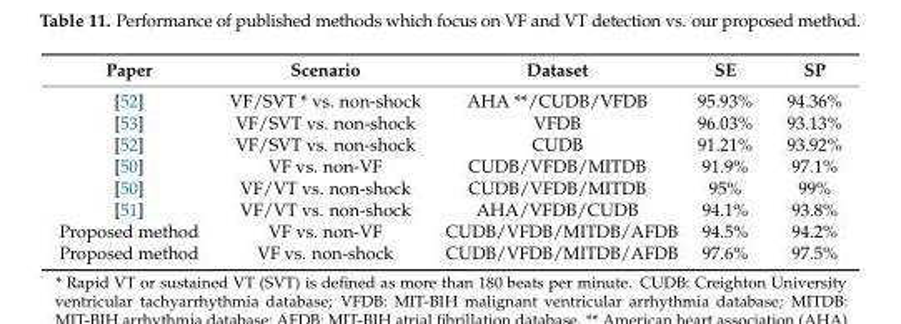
<table><thead><tr><td>Paper</td><td>Scenario</td><td>Dataset</td><td>SE</td><td>SP</td></tr></thead><tbody><tr><td>[52]</td><td>VF/SVT * vs. non-shock</td><td>AHA **/CUDB/VFDB</td><td>95.93%</td><td>94.36%</td></tr><tr><td>[53]</td><td>VF/SVT vs. non-shock</td><td>VFDB</td><td>96.03%</td><td>93.13%</td></tr><tr><td>[52]</td><td>VF/SVT vs. non-shock</td><td>CUDB</td><td>91.21%</td><td>93.92%</td></tr><tr><td>[50]</td><td>VF vs. non-VF</td><td>CUDB/VFDB/MITDB</td><td>91.9%</td><td>97.1%</td></tr><tr><td>[50]</td><td>VF/VT vs. non-shock</td><td>CUDB/VFDB/MITDB</td><td>95%</td><td>99%</td></tr><tr><td>[51]</td><td>VF/VT vs. non-shock</td><td>AHA/VFDB/CUDB</td><td>94.1%</td><td>93.8%</td></tr><tr><td>Proposed method</td><td>VF vs. non-VF</td><td>CUDB/VFDB/MITDB/AFDB</td><td>94.5%</td><td>94.2%</td></tr><tr><td>Proposed method</td><td>VF vs. non-shock</td><td>CUDB/VFDB/MITDB/AFDB</td><td>97.6%</td><td>97.5%</td></tr></tbody></table>